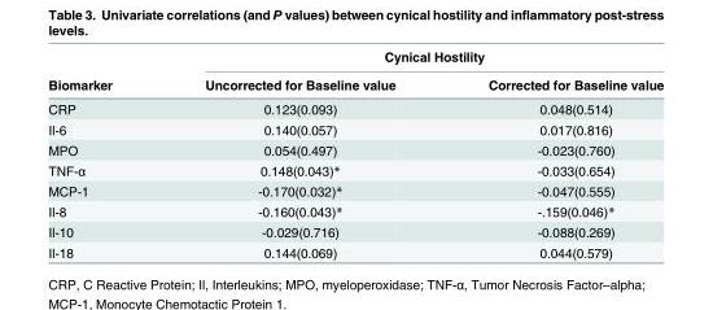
<table><thead><tr><td rowspan="2">Biomarker</td><td colspan="2">Cynical Hostility</td></tr><tr><td>Uncorrected for Baseline value</td><td>Corrected for Baseline value</td></tr></thead><tbody><tr><td>CRP</td><td>0.123(0.093)</td><td>0.048(0.514)</td></tr><tr><td>Il-6</td><td>0.140(0.057)</td><td>0.017(0.816)</td></tr><tr><td>MPO</td><td>0.054(0.497)</td><td>-0.023(0.760)</td></tr><tr><td>TNF-α</td><td>0.148(0.043)*</td><td>-0.033(0.654)</td></tr><tr><td>MCP-1</td><td>-0.170(0.032)*</td><td>-0.047(0.555)</td></tr><tr><td>Il-8</td><td>-0.160(0.043)*</td><td>-.159(0.046)*</td></tr><tr><td>Il-10</td><td>-0.029(0.716)</td><td>-0.088(0.269)</td></tr><tr><td>Il-18</td><td>0.144(0.069)</td><td>0.044(0.579)</td></tr></tbody></table>